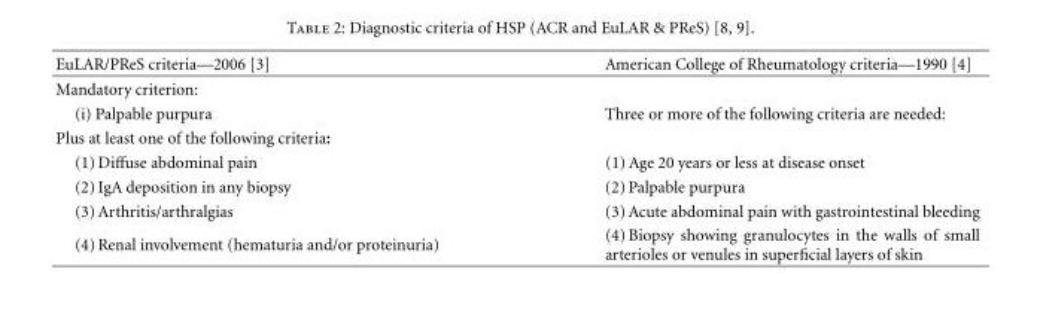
<table><thead><tr><td>EuLAR/PReS criteria—2006 [3]</td><td>American College of Rheumatology criteria—1990 [4]</td></tr></thead><tbody><tr><td colspan="2">Mandatory criterion:</td></tr><tr><td>(i) Palpable purpura</td><td>Three or more of the following criteria are needed:</td></tr><tr><td colspan="2">Plus at least one of the following criteria:</td></tr><tr><td>(1) Diffuse abdominal pain</td><td>(1) Age 20 years or less at disease onset</td></tr><tr><td>(2) IgA deposition in any biopsy</td><td>(2) Palpable purpura</td></tr><tr><td>(3) Arthritis/arthralgias</td><td>(3) Acute abdominal pain with gastrointestinal bleeding</td></tr><tr><td>(4) Renal involvement (hematuria and/or proteinuria)</td><td>(4) Biopsy showing granulocytes in the walls of small arterioles or venules in superficial layers of skin</td></tr></tbody></table>